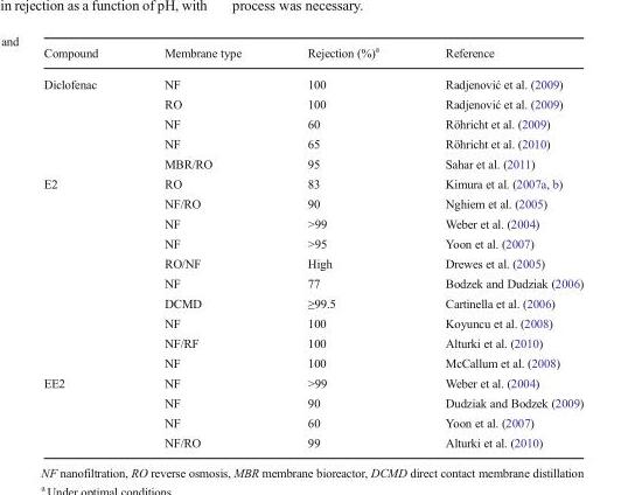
<table><thead><tr><td>Compound</td><td>Membrane type</td><td>Rejection (%)<sup>a</sup></td><td>Reference</td></tr></thead><tbody><tr><td rowspan="5">Diclofenac</td><td>NF</td><td>100</td><td>Radjenović et al. (2009)</td></tr><tr><td>RO</td><td>100</td><td>Radjenović et al. (2009)</td></tr><tr><td>NF</td><td>60</td><td>Röhricht et al. (2009)</td></tr><tr><td>NF</td><td>65</td><td>Röhricht et al. (2010)</td></tr><tr><td>MBR/RO</td><td>95</td><td>Sahar et al. (2011)</td></tr><tr><td rowspan="10">E2</td><td>RO</td><td>83</td><td>Kimura et al. (2007a, b)</td></tr><tr><td>NF/RO</td><td>90</td><td>Nghiem et al. (2005)</td></tr><tr><td>NF</td><td>&gt;99</td><td>Weber et al. (2004)</td></tr><tr><td>NF</td><td>&gt;95</td><td>Yoon et al. (2007)</td></tr><tr><td>RO/NF</td><td>High</td><td>Drewes et al. (2005)</td></tr><tr><td>NF</td><td>77</td><td>Bodzek and Dudziak (2006)</td></tr><tr><td>DCMD</td><td>≥99.5</td><td>Cartinella et al. (2006)</td></tr><tr><td>NF</td><td>100</td><td>Koyuncu et al. (2008)</td></tr><tr><td>NF/RF</td><td>100</td><td>Alturki et al. (2010)</td></tr><tr><td>NF</td><td>100</td><td>McCallum et al. (2008)</td></tr><tr><td rowspan="4">EE2</td><td>NF</td><td>&gt;99</td><td>Weber et al. (2004)</td></tr><tr><td>NF</td><td>90</td><td>Dudziak and Bodzek (2009)</td></tr><tr><td>NF</td><td>60</td><td>Yoon et al. (2007)</td></tr><tr><td>NF/RO</td><td>99</td><td>Alturki et al. (2010)</td></tr></tbody></table>